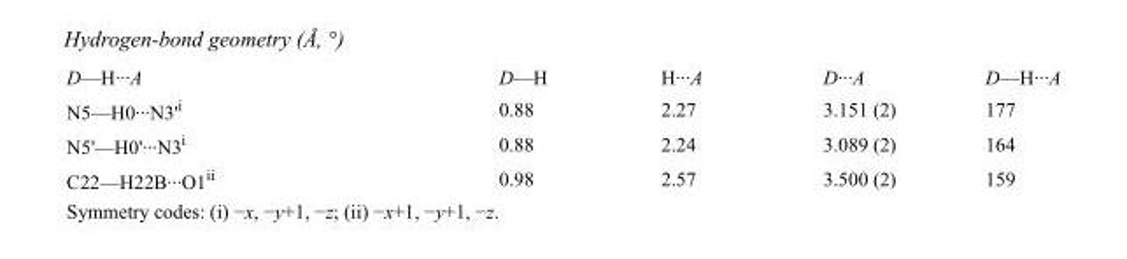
<table><tbody><tr><td>D—H···A</td><td>D—H</td><td>H···A</td><td>D···A</td><td>D—H···A</td></tr><tr><td>N5—H0···N3&#x27;<sup>i</sup></td><td>0.88</td><td>2.27</td><td>3.151 (2)</td><td>177</td></tr><tr><td>N5&#x27;—H0&#x27;···N3<sup>i</sup></td><td>0.88</td><td>2.24</td><td>3.089 (2)</td><td>164</td></tr><tr><td>C22—H22B···O1<sup>ii</sup></td><td>0.98</td><td>2.57</td><td>3.500 (2)</td><td>159</td></tr></tbody></table>